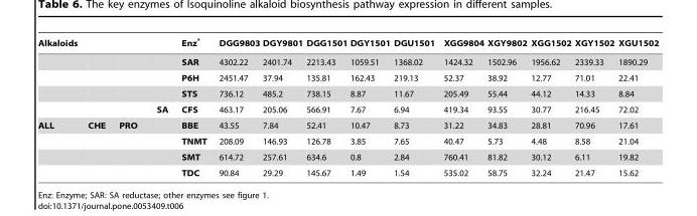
<table><thead><tr><td colspan="4">Alkaloids</td><td rowspan="2">Enz* SAR</td><td rowspan="2">DGG9803 4302.22</td><td rowspan="2">DGY9801 2401.74</td><td rowspan="2">DGG1501 2213.43</td><td rowspan="2">DGY1501 1059.51</td><td rowspan="2">DGU1501 1368.02</td><td rowspan="2">XGG9804 1424.32</td><td rowspan="2">XGY9802 1502.96</td><td rowspan="2">XGG1502 1956.62</td><td rowspan="2">XGY1502 2339.33</td><td rowspan="2">XGU1502 1890.29</td></tr><tr><td></td><td></td><td></td><td></td></tr></thead><tbody><tr><td></td><td></td><td></td><td></td><td>P6H</td><td>2451.47</td><td>37.94</td><td>135.81</td><td>162.43</td><td>219.13</td><td>52.37</td><td>38.92</td><td>12.77</td><td>71.01</td><td>22.41</td></tr><tr><td></td><td></td><td></td><td></td><td>STS</td><td>736.12</td><td>485.2</td><td>738.15</td><td>8.87</td><td>11.67</td><td>205.49</td><td>55.44</td><td>44.12</td><td>14.33</td><td>8.84</td></tr><tr><td></td><td></td><td></td><td>SA</td><td>CFS</td><td>463.17</td><td>205.06</td><td>566.91</td><td>7.67</td><td>6.94</td><td>419.34</td><td>93.55</td><td>30.77</td><td>216.45</td><td>72.02</td></tr><tr><td rowspan="4">ALL</td><td>CHE</td><td>PRO</td><td></td><td>BBE</td><td>43.55</td><td>7.84</td><td>52.41</td><td>10.47</td><td>8.73</td><td>31.22</td><td>34.83</td><td>28.81</td><td>70.96</td><td>17.61</td></tr><tr><td></td><td></td><td></td><td>TNMT</td><td>208.09</td><td>146.93</td><td>126.78</td><td>3.85</td><td>7.65</td><td>40.47</td><td>5.73</td><td>4.48</td><td>8.58</td><td>21.04</td></tr><tr><td></td><td></td><td></td><td>SMT</td><td>614.72</td><td>257.61</td><td>634.6</td><td>0.8</td><td>2.84</td><td>760.41</td><td>81.82</td><td>30.12</td><td>6.11</td><td>19.82</td></tr><tr><td></td><td></td><td></td><td>TDC</td><td>90.84</td><td>29.29</td><td>145.67</td><td>1.49</td><td>1.54</td><td>535.02</td><td>58.75</td><td>32.24</td><td>21.47</td><td>15.62</td></tr></tbody></table>